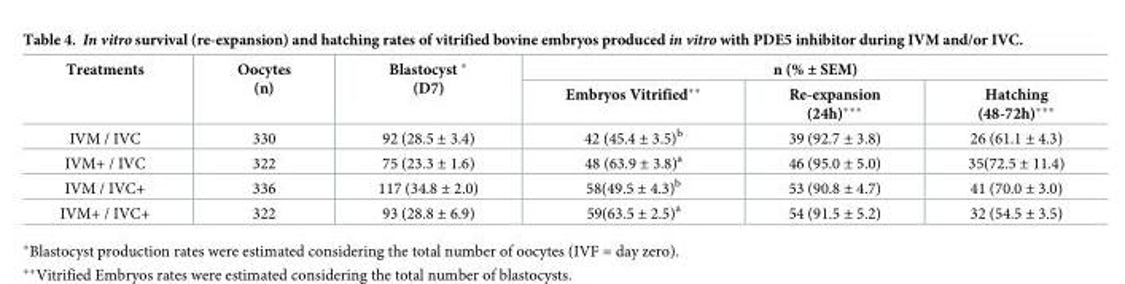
<table><thead><tr><td rowspan="2">Treatments</td><td rowspan="2">Oocytes (n)</td><td rowspan="2">Blastocyst * (D7)</td><td colspan="3">n (% ± SEM)</td></tr><tr><td>Embryos Vitrified**</td><td>Re-expansion (24h)***</td><td>Hatching (48-72h)***</td></tr></thead><tbody><tr><td>IVM / IVC</td><td>330</td><td>92 (28.5 ± 3.4)</td><td>42 (45.4 ± 3.5)<sup>b</sup></td><td>39 (92.7 ± 3.8)</td><td>26 (61.1 ± 4.3)</td></tr><tr><td>IVM+ / IVC</td><td>322</td><td>75 (23.3 ± 1.6)</td><td>48 (63.9 ± 3.8)<sup>a</sup></td><td>46 (95.0 ± 5.0)</td><td>35(72.5 ± 11.4)</td></tr><tr><td>IVM / IVC+</td><td>336</td><td>117 (34.8 ± 2.0)</td><td>58(49.5 ± 4.3)<sup>b</sup></td><td>53 (90.8 ± 4.7)</td><td>41 (70.0 ± 3.0)</td></tr><tr><td>IVM+ / IVC+</td><td>322</td><td>93 (28.8 ± 6.9)</td><td>59(63.5 ± 2.5)<sup>a</sup></td><td>54 (91.5 ± 5.2)</td><td>32 (54.5 ± 3.5)</td></tr></tbody></table>